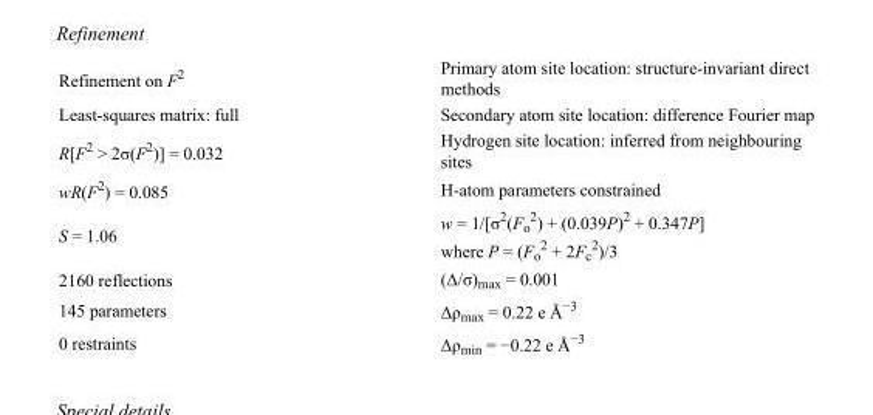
<table><tbody><tr><td>Refinement on F<sup>2</sup></td><td>Primary atom site location: structure-invariant direct methods</td></tr><tr><td>Least-squares matrix: full</td><td>Secondary atom site location: difference Fourier map</td></tr><tr><td>R[F<sup>2</sup> &gt; 2σ(F<sup>2</sup>)] = 0.032</td><td>Hydrogen site location: inferred from neighbouring sites</td></tr><tr><td>wR(F<sup>2</sup>) = 0.085</td><td>H-atom parameters constrained</td></tr><tr><td>S = 1.06</td><td>w = 1/[σ<sup>2</sup>(F<sub>o</sub> <sup>2</sup>) + (0.039P)<sup>2</sup> + 0.347P] where P = (F<sub>o</sub> <sup>2</sup> + 2F<sub>c</sub> <sup>2</sup>)/3</td></tr><tr><td>2160 reflections</td><td>(Δ/σ)<sub>max</sub> = 0.001</td></tr><tr><td>145 parameters</td><td>Δρ<sub>max</sub> = 0.22 e Å<sup>−3</sup></td></tr><tr><td>0 restraints</td><td>Δρ<sub>min</sub> = −0.22 e Å<sup>−3</sup></td></tr></tbody></table>